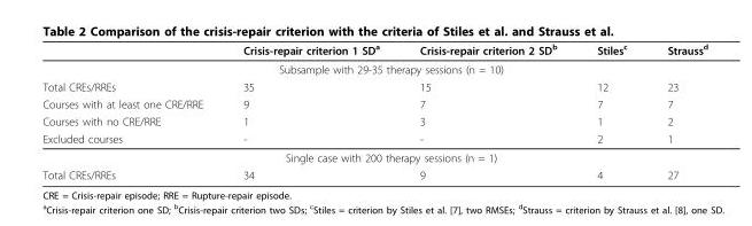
<table><thead><tr><td></td><td>Crisis-repair criterion 1 SD<sup>a</sup></td><td>Crisis-repair criterion 2 SD<sup>b</sup></td><td>Stiles<sup>c</sup></td><td>Strauss<sup>d</sup></td></tr></thead><tbody><tr><td colspan="5">Subsample with 29-35 therapy sessions (n = 10)</td></tr><tr><td>Total CREs/RREs</td><td>35</td><td>15</td><td>12</td><td>23</td></tr><tr><td>Courses with at least one CRE/RRE</td><td>9</td><td>7</td><td>7</td><td>7</td></tr><tr><td>Courses with no CRE/RRE</td><td>1</td><td>3</td><td>1</td><td>2</td></tr><tr><td>Excluded courses</td><td>-</td><td>-</td><td>2</td><td>1</td></tr><tr><td colspan="5">Single case with 200 therapy sessions (n = 1)</td></tr><tr><td>Total CREs/RREs</td><td>34</td><td>9</td><td>4</td><td>27</td></tr></tbody></table>